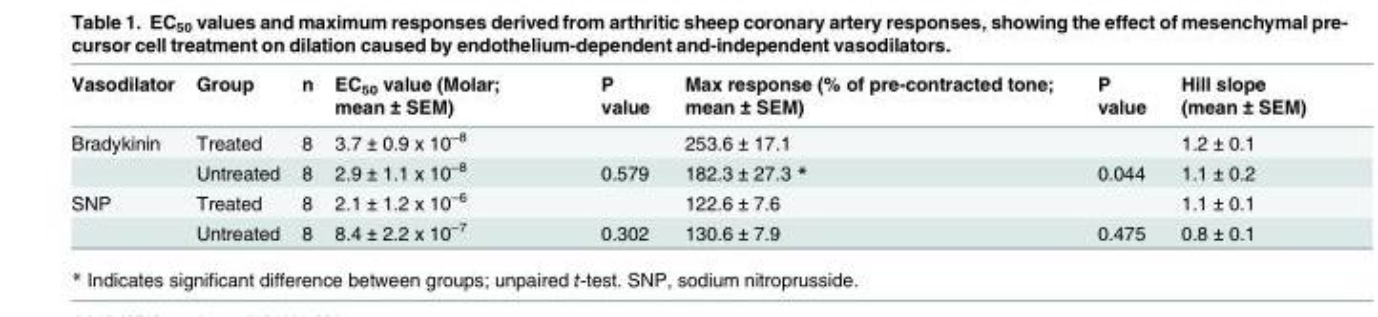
<table><thead><tr><td>Vasodilator</td><td>Group</td><td>n</td><td>EC<sub>50</sub> value (Molar; mean ± SEM)</td><td>P value</td><td>Max response (% of pre-contracted tone; mean ± SEM)</td><td>P value</td><td>Hill slope (mean ± SEM)</td></tr></thead><tbody><tr><td rowspan="2">Bradykinin</td><td>Treated</td><td>8</td><td>3.7 ± 0.9 x 10<sup>–8</sup></td><td></td><td>253.6 ± 17.1</td><td></td><td>1.2 ± 0.1</td></tr><tr><td>Untreated</td><td>8</td><td>2.9 ± 1.1 x 10<sup>–8</sup></td><td>0.579</td><td>182.3 ± 27.3 *</td><td>0.044</td><td>1.1 ± 0.2</td></tr><tr><td rowspan="2">SNP</td><td>Treated</td><td>8</td><td>2.1 ± 1.2 x 10<sup>–6</sup></td><td></td><td>122.6 ± 7.6</td><td></td><td>1.1 ± 0.1</td></tr><tr><td>Untreated</td><td>8</td><td>8.4 ± 2.2 x 10<sup>–7</sup></td><td>0.302</td><td>130.6 ± 7.9</td><td>0.475</td><td>0.8 ± 0.1</td></tr></tbody></table>